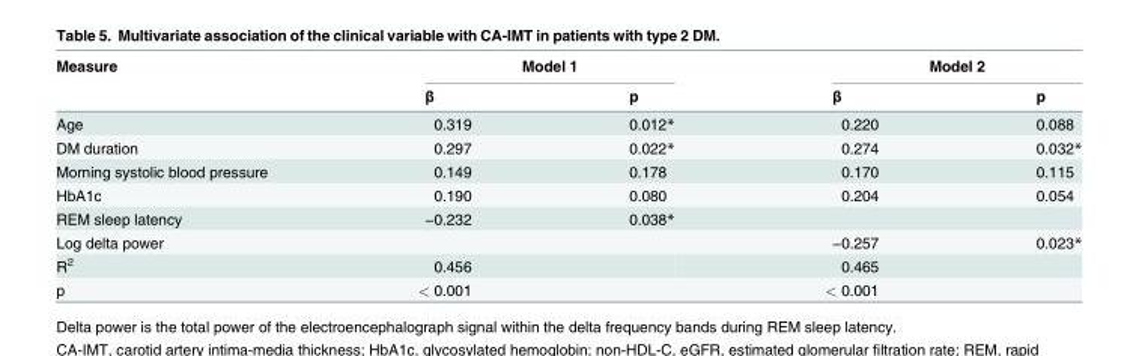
<table><thead><tr><td rowspan="2">Measure</td><td colspan="2">Model 1</td><td colspan="2">Model 2</td></tr><tr><td>β</td><td>p</td><td>β</td><td>p</td></tr></thead><tbody><tr><td>Age</td><td>0.319</td><td>0.012*</td><td>0.220</td><td>0.088</td></tr><tr><td>DM duration</td><td>0.297</td><td>0.022*</td><td>0.274</td><td>0.032*</td></tr><tr><td>Morning systolic blood pressure</td><td>0.149</td><td>0.178</td><td>0.170</td><td>0.115</td></tr><tr><td>HbA1c</td><td>0.190</td><td>0.080</td><td>0.204</td><td>0.054</td></tr><tr><td>REM sleep latency</td><td>−0.232</td><td>0.038*</td><td></td><td></td></tr><tr><td>Log delta power</td><td></td><td></td><td>−0.257</td><td>0.023*</td></tr><tr><td>R<sup>2</sup></td><td colspan="2">0.456</td><td colspan="2">0.465</td></tr><tr><td>p</td><td colspan="2">&lt; 0.001</td><td colspan="2">&lt; 0.001</td></tr></tbody></table>